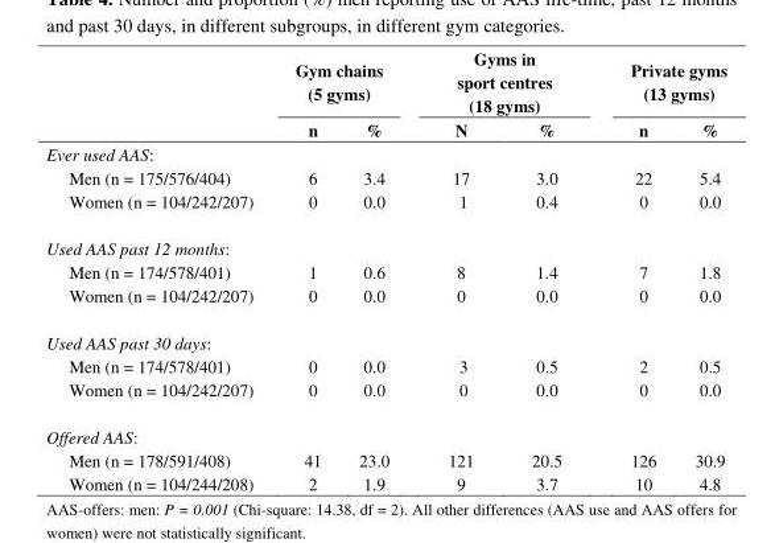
<table><thead><tr><td rowspan="2"></td><td colspan="2">Gym chains (5 gyms)</td><td colspan="2">Gyms in sport centres (18 gyms)</td><td colspan="2">Private gyms (13 gyms)</td></tr><tr><td>n</td><td>%</td><td>N</td><td>%</td><td>n</td><td>%</td></tr></thead><tbody><tr><td colspan="7">Ever used AAS:</td></tr><tr><td>Men (n = 175/576/404)</td><td>6</td><td>3.4</td><td>17</td><td>3.0</td><td>22</td><td>5.4</td></tr><tr><td>Women (n = 104/242/207)</td><td>0</td><td>0.0</td><td>1</td><td>0.4</td><td>0</td><td>0.0</td></tr><tr><td colspan="7">Used AAS past 12 months:</td></tr><tr><td>Men (n = 174/578/401)</td><td>1</td><td>0.6</td><td>8</td><td>1.4</td><td>7</td><td>1.8</td></tr><tr><td>Women (n = 104/242/207)</td><td>0</td><td>0.0</td><td>0</td><td>0.0</td><td>0</td><td>0.0</td></tr><tr><td colspan="7">Used AAS past 30 days:</td></tr><tr><td>Men (n = 174/578/401)</td><td>0</td><td>0.0</td><td>3</td><td>0.5</td><td>2</td><td>0.5</td></tr><tr><td>Women (n = 104/242/207)</td><td>0</td><td>0.0</td><td>0</td><td>0.0</td><td>0</td><td>0.0</td></tr><tr><td colspan="7">Offered AAS:</td></tr><tr><td>Men (n = 178/591/408)</td><td>41</td><td>23.0</td><td>121</td><td>20.5</td><td>126</td><td>30.9</td></tr><tr><td>Women (n = 104/244/208)</td><td>2</td><td>1.9</td><td>9</td><td>3.7</td><td>10</td><td>4.8</td></tr></tbody></table>